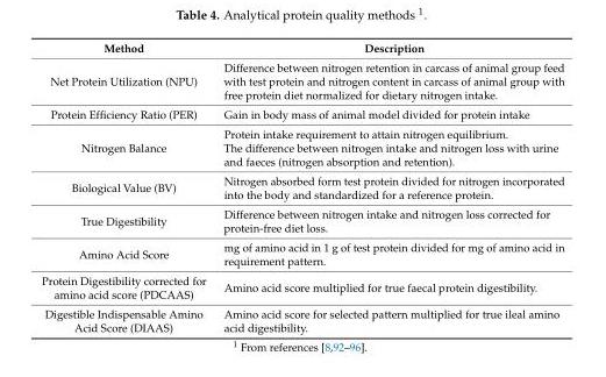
<table><thead><tr><td>Method</td><td>Description</td></tr></thead><tbody><tr><td>Net Protein Utilization (NPU)</td><td>Difference between nitrogen retention in carcass of animal group feed with test protein and nitrogen content in carcass of animal group with free protein diet normalized for dietary nitrogen intake.</td></tr><tr><td>Protein Efficiency Ratio (PER)</td><td>Gain in body mass of animal model divided for protein intake</td></tr><tr><td>Nitrogen Balance</td><td>Protein intake requirement to attain nitrogen equilibrium. The difference between nitrogen intake and nitrogen loss with urine and faeces (nitrogen absorption and retention).</td></tr><tr><td>Biological Value (BV)</td><td>Nitrogen absorbed form test protein divided for nitrogen incorporated into the body and standardized for a reference protein.</td></tr><tr><td>True Digestibility</td><td>Difference between nitrogen intake and nitrogen loss corrected for protein-free diet loss.</td></tr><tr><td>Amino Acid Score</td><td>mg of amino acid in 1 g of test protein divided for mg of amino acid in requirement pattern.</td></tr><tr><td>Protein Digestibility corrected for amino acid score (PDCAAS)</td><td>Amino acid score multiplied for true faecal protein digestibility.</td></tr><tr><td>Digestible Indispensable Amino Acid Score (DIAAS)</td><td>Amino acid score for selected pattern multiplied for true ileal amino acid digestibility.</td></tr></tbody></table>